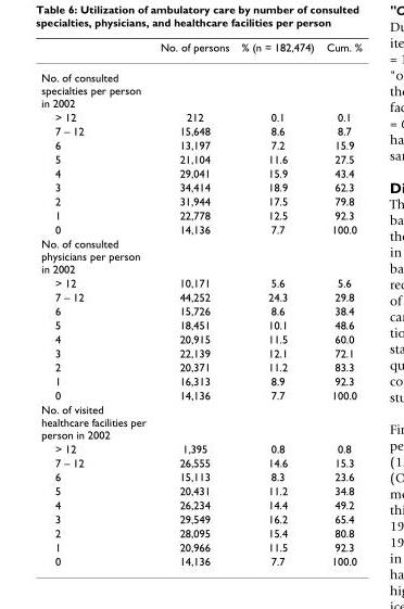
<table><thead><tr><td></td><td>No. of persons</td><td>% (n = 182,474)</td><td>Cum. %</td></tr></thead><tbody><tr><td colspan="4">No. of consulted specialties per person in 2002</td></tr><tr><td>&gt; 12</td><td>212</td><td>0.1</td><td>0.1</td></tr><tr><td>7 – 12</td><td>15,648</td><td>8.6</td><td>8.7</td></tr><tr><td>6</td><td>13,197</td><td>7.2</td><td>15.9</td></tr><tr><td>5</td><td>21,104</td><td>11.6</td><td>27.5</td></tr><tr><td>4</td><td>29,041</td><td>15.9</td><td>43.4</td></tr><tr><td>3</td><td>34,414</td><td>18.9</td><td>62.3</td></tr><tr><td>2</td><td>31,944</td><td>17.5</td><td>79.8</td></tr><tr><td>1</td><td>22,778</td><td>12.5</td><td>92.3</td></tr><tr><td>0</td><td>14,136</td><td>7.7</td><td>100.0</td></tr><tr><td colspan="4">No. of consulted physicians per person in 2002</td></tr><tr><td>&gt; 12</td><td>10,171</td><td>5.6</td><td>5.6</td></tr><tr><td>7 – 12</td><td>44,252</td><td>24.3</td><td>29.8</td></tr><tr><td>6</td><td>15,726</td><td>8.6</td><td>38.4</td></tr><tr><td>5</td><td>18,451</td><td>10.1</td><td>48.6</td></tr><tr><td>4</td><td>20,915</td><td>11.5</td><td>60.0</td></tr><tr><td>3</td><td>22,139</td><td>12.1</td><td>72.1</td></tr><tr><td>2</td><td>20,371</td><td>11.2</td><td>83.3</td></tr><tr><td>1</td><td>16,313</td><td>8.9</td><td>92.3</td></tr><tr><td>0</td><td>14,136</td><td>7.7</td><td>100.0</td></tr><tr><td colspan="4">No. of visited healthcare facilities per person in 2002</td></tr><tr><td>&gt; 12</td><td>1,395</td><td>0.8</td><td>0.8</td></tr><tr><td>7 – 12</td><td>26,555</td><td>14.6</td><td>15.3</td></tr><tr><td>6</td><td>15,113</td><td>8.3</td><td>23.6</td></tr><tr><td>5</td><td>20,431</td><td>11.2</td><td>34.8</td></tr><tr><td>4</td><td>26,234</td><td>14.4</td><td>49.2</td></tr><tr><td>3</td><td>29,549</td><td>16.2</td><td>65.4</td></tr><tr><td>2</td><td>28,095</td><td>15.4</td><td>80.8</td></tr><tr><td>1</td><td>20,966</td><td>11.5</td><td>92.3</td></tr><tr><td>0</td><td>14,136</td><td>7.7</td><td>100.0</td></tr></tbody></table>